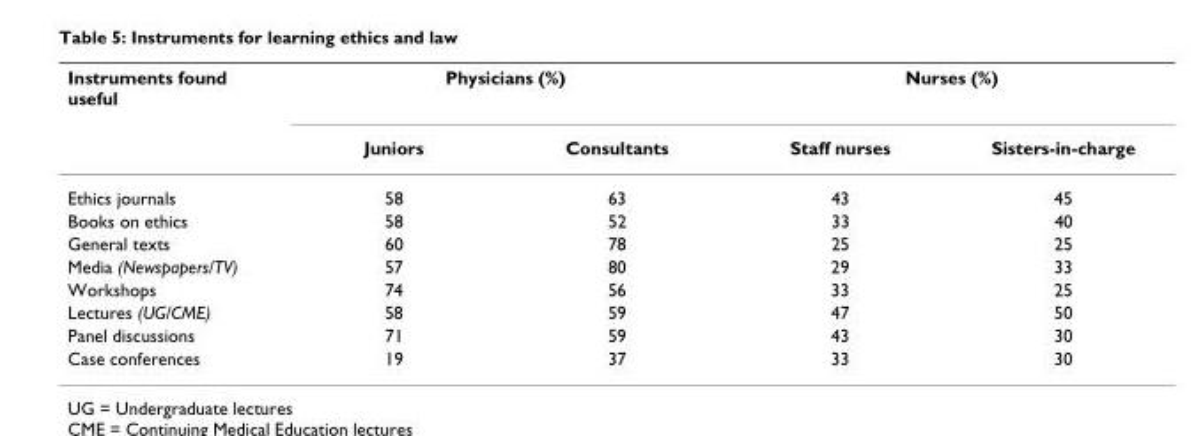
<table><thead><tr><td rowspan="2">Instruments found useful</td><td colspan="2">Physicians (%)</td><td colspan="2">Nurses (%)</td></tr><tr><td>Juniors</td><td>Consultants</td><td>Staff nurses</td><td>Sisters-in-charge</td></tr></thead><tbody><tr><td>Ethics journals</td><td>58</td><td>63</td><td>43</td><td>45</td></tr><tr><td>Books on ethics</td><td>58</td><td>52</td><td>33</td><td>40</td></tr><tr><td>General texts</td><td>60</td><td>78</td><td>25</td><td>25</td></tr><tr><td>Media (Newspapers/TV)</td><td>57</td><td>80</td><td>29</td><td>33</td></tr><tr><td>Workshops</td><td>74</td><td>56</td><td>33</td><td>25</td></tr><tr><td>Lectures (UG/CME)</td><td>58</td><td>59</td><td>47</td><td>50</td></tr><tr><td>Panel discussions</td><td>71</td><td>59</td><td>43</td><td>30</td></tr><tr><td>Case conferences</td><td>19</td><td>37</td><td>33</td><td>30</td></tr></tbody></table>